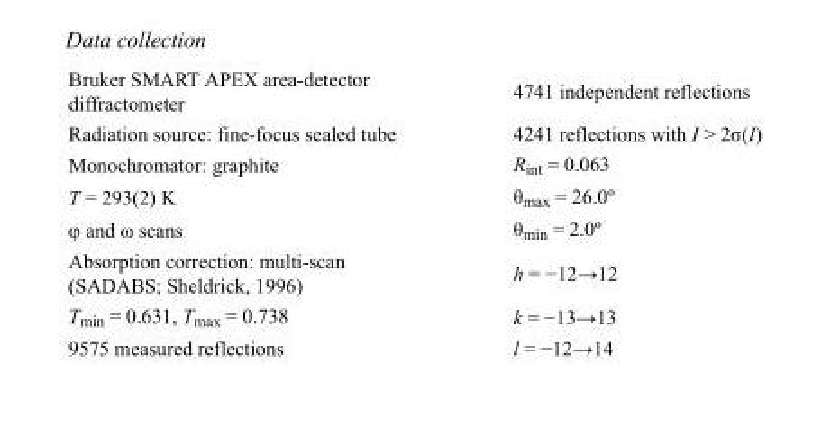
<table><tbody><tr><td>Bruker SMART APEX area-detector diffractometer</td><td>4741 independent reflections</td></tr><tr><td>Radiation source: fine-focus sealed tube</td><td>4241 reflections with I &gt; 2σ(I)</td></tr><tr><td>Monochromator: graphite</td><td>R<sub>int</sub> = 0.063</td></tr><tr><td>T = 293(2) K</td><td>θ<sub>max</sub> = 26.0º</td></tr><tr><td>φ and ω scans</td><td>θ<sub>min</sub> = 2.0º</td></tr><tr><td>Absorption correction: multi-scan (SADABS; Sheldrick, 1996)</td><td>h = −12→12</td></tr><tr><td>T<sub>min</sub> = 0.631, T<sub>max</sub> = 0.738</td><td>k = −13→13</td></tr><tr><td>9575 measured reflections</td><td>l = −12→14</td></tr></tbody></table>